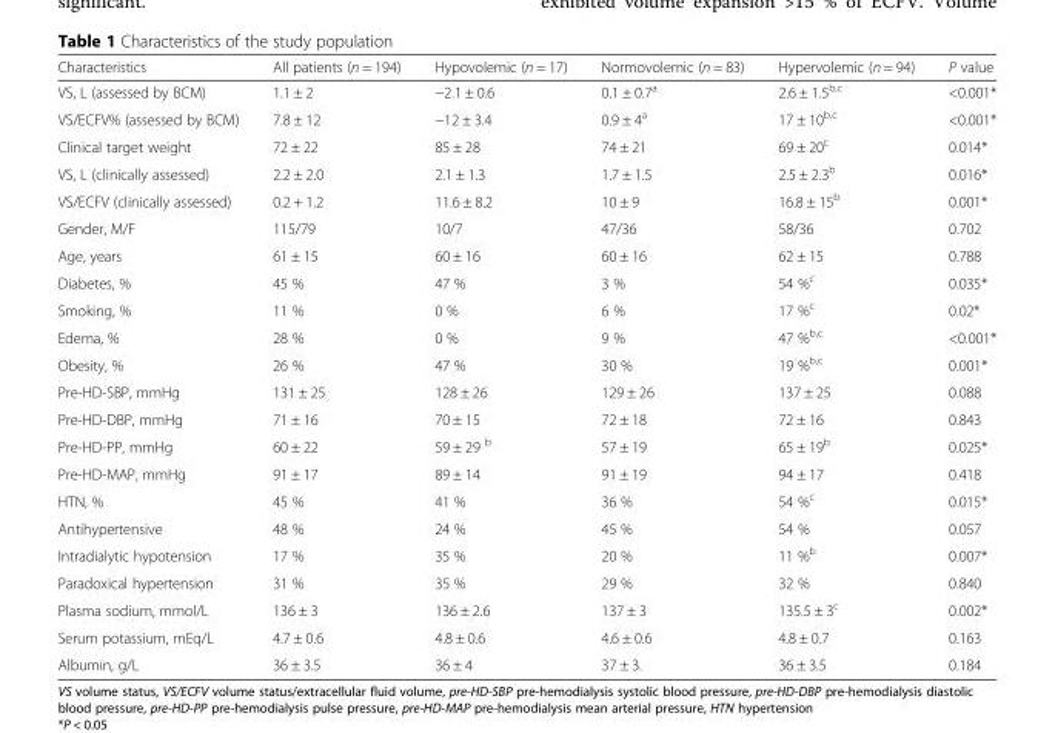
<table><thead><tr><td>Characteristics</td><td>All patients (n = 194)</td><td>Hypovolemic (n = 17)</td><td>Normovolemic (n = 83)</td><td>Hypervolemic (n = 94)</td><td>P value</td></tr></thead><tbody><tr><td>VS, L (assessed by BCM)</td><td>1.1 ± 2</td><td>−2.1 ± 0.6</td><td>0.1 ± 0.7<sup>a</sup></td><td>2.6 ± 1.5<sup>b,c</sup></td><td>&lt;0.001*</td></tr><tr><td>VS/ECFV% (assessed by BCM)</td><td>7.8 ± 12</td><td>−12 ± 3.4</td><td>0.9 ± 4<sup>a</sup></td><td>17 ± 10<sup>b,c</sup></td><td>&lt;0.001*</td></tr><tr><td>Clinical target weight</td><td>72 ± 22</td><td>85 ± 28</td><td>74 ± 21</td><td>69 ± 20<sup>c</sup></td><td>0.014*</td></tr><tr><td>VS, L (clinically assessed)</td><td>2.2 ± 2.0</td><td>2.1 ± 1.3</td><td>1.7 ± 1.5</td><td>2.5 ± 2.3<sup>b</sup></td><td>0.016*</td></tr><tr><td>VS/ECFV (clinically assessed)</td><td>0.2 + 1.2</td><td>11.6 ± 8.2</td><td>10 ± 9</td><td>16.8 ± 15<sup>b</sup></td><td>0.001*</td></tr><tr><td>Gender, M/F</td><td>115/79</td><td>10/7</td><td>47/36</td><td>58/36</td><td>0.702</td></tr><tr><td>Age, years</td><td>61 ± 15</td><td>60 ± 16</td><td>60 ± 16</td><td>62 ± 15</td><td>0.788</td></tr><tr><td>Diabetes, %</td><td>45 %</td><td>47 %</td><td>3 %</td><td>54 %<sup>c</sup></td><td>0.035*</td></tr><tr><td>Smoking, %</td><td>11 %</td><td>0 %</td><td>6 %</td><td>17 %<sup>c</sup></td><td>0.02*</td></tr><tr><td>Edema, %</td><td>28 %</td><td>0 %</td><td>9 %</td><td>47 %<sup>b,c</sup></td><td>&lt;0.001*</td></tr><tr><td>Obesity, %</td><td>26 %</td><td>47 %</td><td>30 %</td><td>19 %<sup>b,c</sup></td><td>0.001*</td></tr><tr><td>Pre-HD-SBP, mmHg</td><td>131 ± 25</td><td>128 ± 26</td><td>129 ± 26</td><td>137 ± 25</td><td>0.088</td></tr><tr><td>Pre-HD-DBP, mmHg</td><td>71 ± 16</td><td>70 ± 15</td><td>72 ± 18</td><td>72 ± 16</td><td>0.843</td></tr><tr><td>Pre-HD-PP, mmHg</td><td>60 ± 22</td><td>59 ± 29 <sup>b</sup></td><td>57 ± 19</td><td>65 ± 19<sup>b</sup></td><td>0.025*</td></tr><tr><td>Pre-HD-MAP, mmHg</td><td>91 ± 17</td><td>89 ± 14</td><td>91 ± 19</td><td>94 ± 17</td><td>0.418</td></tr><tr><td>HTN, %</td><td>45 %</td><td>41 %</td><td>36 %</td><td>54 %<sup>c</sup></td><td>0.015*</td></tr><tr><td>Antihypertensive</td><td>48 %</td><td>24 %</td><td>45 %</td><td>54 %</td><td>0.057</td></tr><tr><td>Intradialytic hypotension</td><td>17 %</td><td>35 %</td><td>20 %</td><td>11 %<sup>b</sup></td><td>0.007*</td></tr><tr><td>Paradoxical hypertension</td><td>31 %</td><td>35 %</td><td>29 %</td><td>32 %</td><td>0.840</td></tr><tr><td>Plasma sodium, mmol/L</td><td>136 ± 3</td><td>136 ± 2.6</td><td>137 ± 3</td><td>135.5 ± 3<sup>c</sup></td><td>0.002*</td></tr><tr><td>Serum potassium, mEq/L</td><td>4.7 ± 0.6</td><td>4.8 ± 0.6</td><td>4.6 ± 0.6</td><td>4.8 ± 0.7</td><td>0.163</td></tr><tr><td>Albumin, g/L</td><td>36 ± 3.5</td><td>36 ± 4</td><td>37 ± 3.</td><td>36 ± 3.5</td><td>0.184</td></tr></tbody></table>